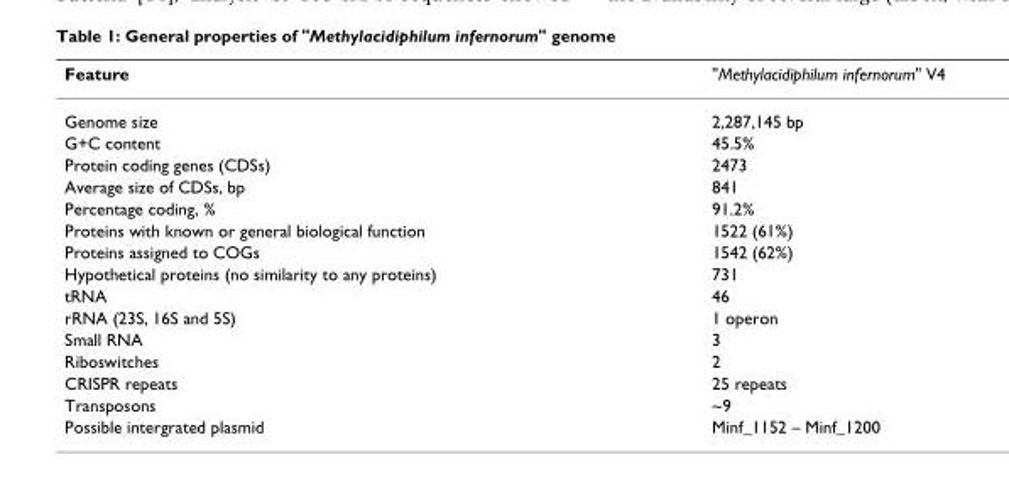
<table><thead><tr><td>Feature</td><td>&quot;Methylacidiphilum infernorum&quot; V4</td></tr></thead><tbody><tr><td>Genome size</td><td>2,287,145 bp</td></tr><tr><td>G+C content</td><td>45.5%</td></tr><tr><td>Protein coding genes (CDSs)</td><td>2473</td></tr><tr><td>Average size of CDSs, bp</td><td>841</td></tr><tr><td>Percentage coding, %</td><td>91.2%</td></tr><tr><td>Proteins with known or general biological function</td><td>1522 (61%)</td></tr><tr><td>Proteins assigned to COGs</td><td>1542 (62%)</td></tr><tr><td>Hypothetical proteins (no similarity to any proteins)</td><td>731</td></tr><tr><td>tRNA</td><td>46</td></tr><tr><td>rRNA (23S, 16S and 5S)</td><td>1 operon</td></tr><tr><td>Small RNA</td><td>3</td></tr><tr><td>Riboswitches</td><td>2</td></tr><tr><td>CRISPR repeats</td><td>25 repeats</td></tr><tr><td>Transposons</td><td>~9</td></tr><tr><td>Possible intergrated plasmid</td><td>Minf_1152 – Minf_1200</td></tr></tbody></table>